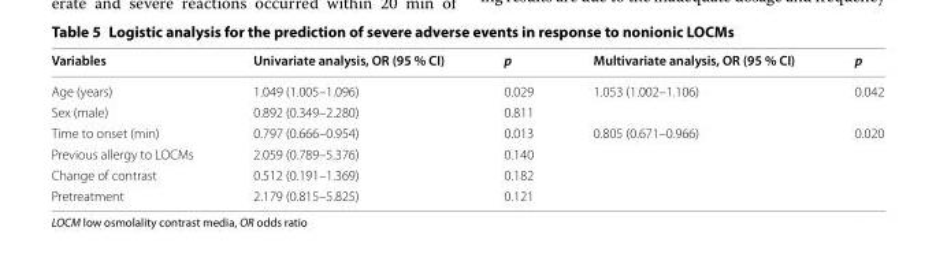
<table><thead><tr><td>Variables</td><td>Univariate analysis, OR (95 % CI)</td><td>p</td><td>Multivariate analysis, OR (95 % CI)</td><td>p</td></tr></thead><tbody><tr><td>Age (years)</td><td>1.049 (1.005–1.096)</td><td>0.029</td><td>1.053 (1.002–1.106)</td><td>0.042</td></tr><tr><td>Sex (male)</td><td>0.892 (0.349–2.280)</td><td>0.811</td><td></td><td></td></tr><tr><td>Time to onset (min)</td><td>0.797 (0.666–0.954)</td><td>0.013</td><td>0.805 (0.671–0.966)</td><td>0.020</td></tr><tr><td>Previous allergy to LOCMs</td><td>2.059 (0.789–5.376)</td><td>0.140</td><td></td><td></td></tr><tr><td>Change of contrast</td><td>0.512 (0.191–1.369)</td><td>0.182</td><td></td><td></td></tr><tr><td>Pretreatment</td><td>2.179 (0.815–5.825)</td><td>0.121</td><td></td><td></td></tr></tbody></table>